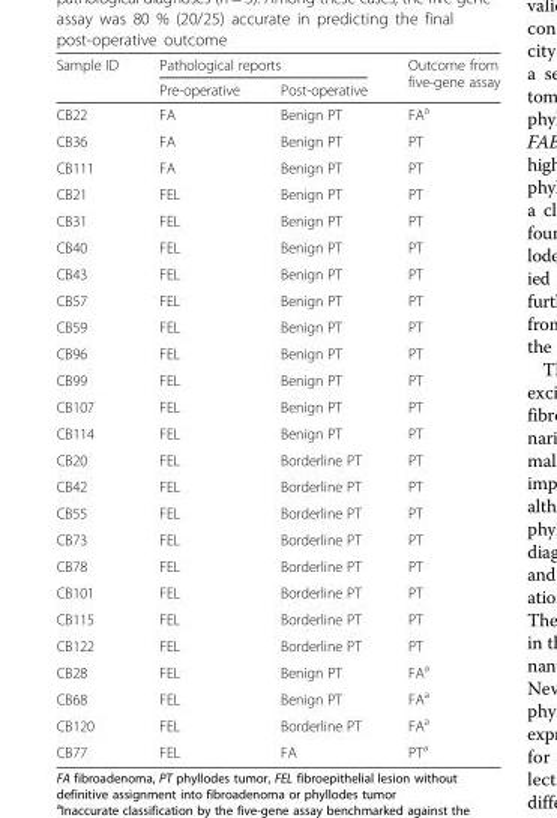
<table><thead><tr><td rowspan="2">Sample ID</td><td colspan="2">Pathological reports</td><td rowspan="2">Outcome from five-gene assay</td></tr><tr><td>Pre-operative</td><td>Post-operative</td></tr></thead><tbody><tr><td>CB22</td><td>FA</td><td>Benign PT</td><td>FA<sup>a</sup></td></tr><tr><td>CB36</td><td>FA</td><td>Benign PT</td><td>PT</td></tr><tr><td>CB111</td><td>FA</td><td>Benign PT</td><td>PT</td></tr><tr><td>CB21</td><td>FEL</td><td>Benign PT</td><td>PT</td></tr><tr><td>CB31</td><td>FEL</td><td>Benign PT</td><td>PT</td></tr><tr><td>CB40</td><td>FEL</td><td>Benign PT</td><td>PT</td></tr><tr><td>CB43</td><td>FEL</td><td>Benign PT</td><td>PT</td></tr><tr><td>CB57</td><td>FEL</td><td>Benign PT</td><td>PT</td></tr><tr><td>CB59</td><td>FEL</td><td>Benign PT</td><td>PT</td></tr><tr><td>CB96</td><td>FEL</td><td>Benign PT</td><td>PT</td></tr><tr><td>CB99</td><td>FEL</td><td>Benign PT</td><td>PT</td></tr><tr><td>CB107</td><td>FEL</td><td>Benign PT</td><td>PT</td></tr><tr><td>CB114</td><td>FEL</td><td>Benign PT</td><td>PT</td></tr><tr><td>CB20</td><td>FEL</td><td>Borderline PT</td><td>PT</td></tr><tr><td>CB42</td><td>FEL</td><td>Borderline PT</td><td>PT</td></tr><tr><td>CB55</td><td>FEL</td><td>Borderline PT</td><td>PT</td></tr><tr><td>CB73</td><td>FEL</td><td>Borderline PT</td><td>PT</td></tr><tr><td>CB78</td><td>FEL</td><td>Borderline PT</td><td>PT</td></tr><tr><td>CB101</td><td>FEL</td><td>Borderline PT</td><td>PT</td></tr><tr><td>CB115</td><td>FEL</td><td>Borderline PT</td><td>PT</td></tr><tr><td>CB122</td><td>FEL</td><td>Borderline PT</td><td>PT</td></tr><tr><td>CB28</td><td>FEL</td><td>Benign PT</td><td>FA<sup>a</sup></td></tr><tr><td>CB68</td><td>FEL</td><td>Benign PT</td><td>FA<sup>a</sup></td></tr><tr><td>CB120</td><td>FEL</td><td>Borderline PT</td><td>FA<sup>a</sup></td></tr><tr><td>CB77</td><td>FEL</td><td>FA</td><td>PT<sup>a</sup></td></tr></tbody></table>